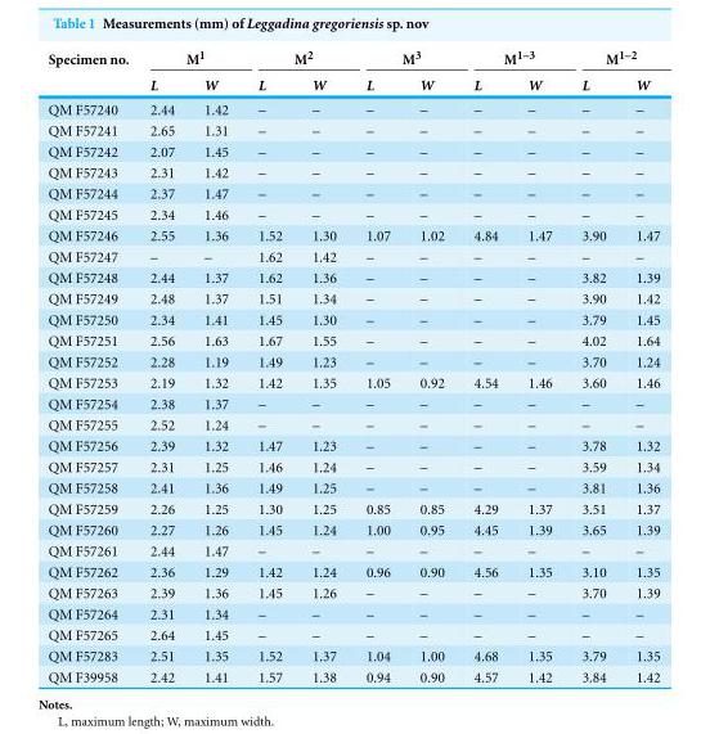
<table><thead><tr><td rowspan="2">Specimen no.</td><td colspan="2">M<sup>1</sup></td><td colspan="2">M<sup>2</sup></td><td colspan="2">M<sup>3</sup></td><td colspan="2">M<sup>1–3</sup></td><td colspan="2">M<sup>1–2</sup></td></tr><tr><td>L</td><td>W</td><td>L</td><td>W</td><td>L</td><td>W</td><td>L</td><td>W</td><td>L</td><td>W</td></tr></thead><tbody><tr><td>QM F57240</td><td>2.44</td><td>1.42</td><td>–</td><td>–</td><td>–</td><td>–</td><td>–</td><td>–</td><td>–</td><td>–</td></tr><tr><td>QM F57241</td><td>2.65</td><td>1.31</td><td>–</td><td>–</td><td>–</td><td>–</td><td>–</td><td>–</td><td>–</td><td>–</td></tr><tr><td>QM F57242</td><td>2.07</td><td>1.45</td><td>–</td><td>–</td><td>–</td><td>–</td><td>–</td><td>–</td><td>–</td><td>–</td></tr><tr><td>QM F57243</td><td>2.31</td><td>1.42</td><td>–</td><td>–</td><td>–</td><td>–</td><td>–</td><td>–</td><td>–</td><td>–</td></tr><tr><td>QM F57244</td><td>2.37</td><td>1.47</td><td>–</td><td>–</td><td>–</td><td>–</td><td>–</td><td>–</td><td>–</td><td>–</td></tr><tr><td>QM F57245</td><td>2.34</td><td>1.46</td><td>–</td><td>–</td><td>–</td><td>–</td><td>–</td><td>–</td><td>–</td><td>–</td></tr><tr><td>QM F57246</td><td>2.55</td><td>1.36</td><td>1.52</td><td>1.30</td><td>1.07</td><td>1.02</td><td>4.84</td><td>1.47</td><td>3.90</td><td>1.47</td></tr><tr><td>QM F57247</td><td>–</td><td>–</td><td>1.62</td><td>1.42</td><td>–</td><td>–</td><td>–</td><td>–</td><td>–</td><td>–</td></tr><tr><td>QM F57248</td><td>2.44</td><td>1.37</td><td>1.62</td><td>1.36</td><td>–</td><td>–</td><td>–</td><td>–</td><td>3.82</td><td>1.39</td></tr><tr><td>QM F57249</td><td>2.48</td><td>1.37</td><td>1.51</td><td>1.34</td><td>–</td><td>–</td><td>–</td><td>–</td><td>3.90</td><td>1.42</td></tr><tr><td>QM F57250</td><td>2.34</td><td>1.41</td><td>1.45</td><td>1.30</td><td>–</td><td>–</td><td>–</td><td>–</td><td>3.79</td><td>1.45</td></tr><tr><td>QM F57251</td><td>2.56</td><td>1.63</td><td>1.67</td><td>1.55</td><td>–</td><td>–</td><td>–</td><td>–</td><td>4.02</td><td>1.64</td></tr><tr><td>QM F57252</td><td>2.28</td><td>1.19</td><td>1.49</td><td>1.23</td><td>–</td><td>–</td><td>–</td><td>–</td><td>3.70</td><td>1.24</td></tr><tr><td>QM F57253</td><td>2.19</td><td>1.32</td><td>1.42</td><td>1.35</td><td>1.05</td><td>0.92</td><td>4.54</td><td>1.46</td><td>3.60</td><td>1.46</td></tr><tr><td>QM F57254</td><td>2.38</td><td>1.37</td><td>–</td><td>–</td><td>–</td><td>–</td><td>–</td><td>–</td><td>–</td><td>–</td></tr><tr><td>QM F57255</td><td>2.52</td><td>1.24</td><td>–</td><td>–</td><td>–</td><td>–</td><td>–</td><td>–</td><td>–</td><td>–</td></tr><tr><td>QM F57256</td><td>2.39</td><td>1.32</td><td>1.47</td><td>1.23</td><td>–</td><td>–</td><td>–</td><td>–</td><td>3.78</td><td>1.32</td></tr><tr><td>QM F57257</td><td>2.31</td><td>1.25</td><td>1.46</td><td>1.24</td><td>–</td><td>–</td><td>–</td><td>–</td><td>3.59</td><td>1.34</td></tr><tr><td>QM F57258</td><td>2.41</td><td>1.36</td><td>1.49</td><td>1.25</td><td>–</td><td>–</td><td>–</td><td>–</td><td>3.81</td><td>1.36</td></tr><tr><td>QM F57259</td><td>2.26</td><td>1.25</td><td>1.30</td><td>1.25</td><td>0.85</td><td>0.85</td><td>4.29</td><td>1.37</td><td>3.51</td><td>1.37</td></tr><tr><td>QM F57260</td><td>2.27</td><td>1.26</td><td>1.45</td><td>1.24</td><td>1.00</td><td>0.95</td><td>4.45</td><td>1.39</td><td>3.65</td><td>1.39</td></tr><tr><td>QM F57261</td><td>2.44</td><td>1.47</td><td>–</td><td>–</td><td>–</td><td>–</td><td>–</td><td>–</td><td>–</td><td>–</td></tr><tr><td>QM F57262</td><td>2.36</td><td>1.29</td><td>1.42</td><td>1.24</td><td>0.96</td><td>0.90</td><td>4.56</td><td>1.35</td><td>3.10</td><td>1.35</td></tr><tr><td>QM F57263</td><td>2.39</td><td>1.36</td><td>1.45</td><td>1.26</td><td>–</td><td>–</td><td>–</td><td>–</td><td>3.70</td><td>1.39</td></tr><tr><td>QM F57264</td><td>2.31</td><td>1.34</td><td>–</td><td>–</td><td>–</td><td>–</td><td>–</td><td>–</td><td>–</td><td>–</td></tr><tr><td>QM F57265</td><td>2.64</td><td>1.45</td><td>–</td><td>–</td><td>–</td><td>–</td><td>–</td><td>–</td><td>–</td><td>–</td></tr><tr><td>QM F57283</td><td>2.51</td><td>1.35</td><td>1.52</td><td>1.37</td><td>1.04</td><td>1.00</td><td>4.68</td><td>1.35</td><td>3.79</td><td>1.35</td></tr><tr><td>QM F39958</td><td>2.42</td><td>1.41</td><td>1.57</td><td>1.38</td><td>0.94</td><td>0.90</td><td>4.57</td><td>1.42</td><td>3.84</td><td>1.42</td></tr></tbody></table>